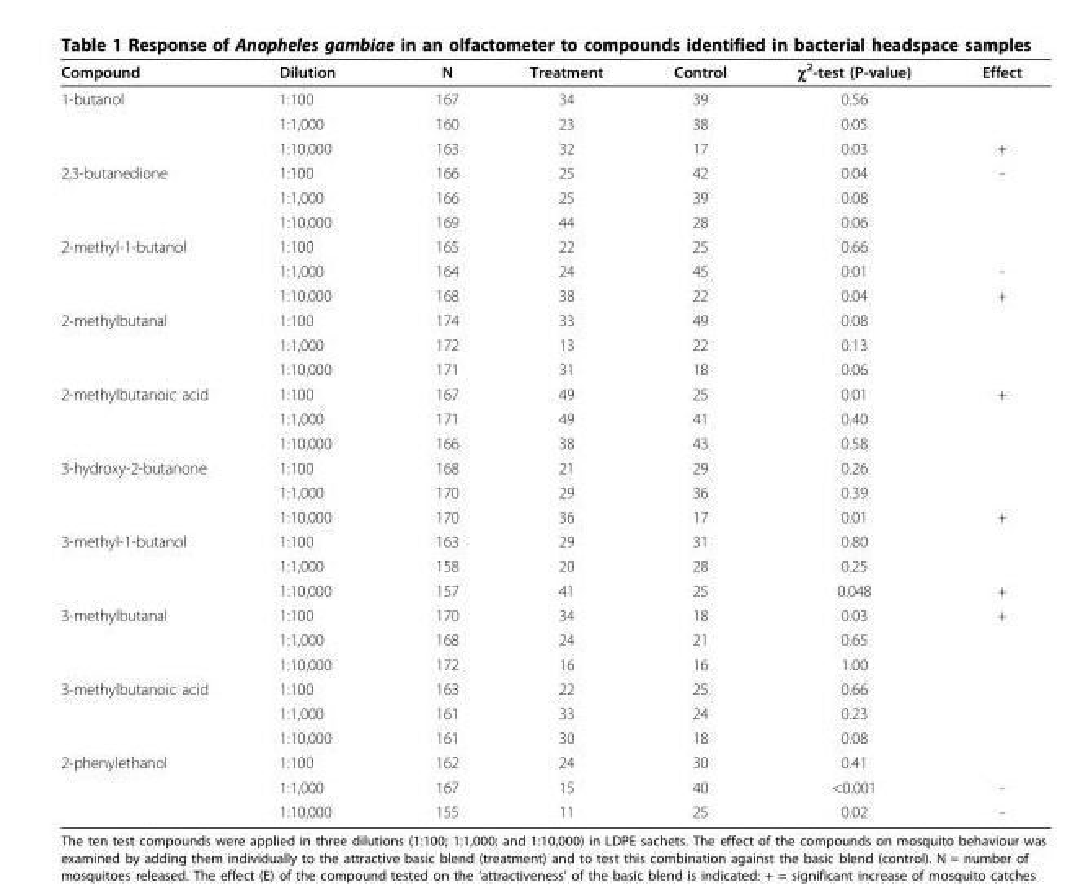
<table><thead><tr><td>Compound</td><td>Dilution</td><td>N</td><td>Treatment</td><td>Control</td><td>χ<sup>2</sup>-test (P-value)</td><td>Effect</td></tr></thead><tbody><tr><td rowspan="3">1-butanol</td><td>1:100</td><td>167</td><td>34</td><td>39</td><td>0.56</td><td></td></tr><tr><td>1:1,000</td><td>160</td><td>23</td><td>38</td><td>0.05</td><td></td></tr><tr><td>1:10,000</td><td>163</td><td>32</td><td>17</td><td>0.03</td><td>+</td></tr><tr><td rowspan="3">2,3-butanedione</td><td>1:100</td><td>166</td><td>25</td><td>42</td><td>0.04</td><td>-</td></tr><tr><td>1:1,000</td><td>166</td><td>25</td><td>39</td><td>0.08</td><td></td></tr><tr><td>1:10,000</td><td>169</td><td>44</td><td>28</td><td>0.06</td><td></td></tr><tr><td rowspan="3">2-methyl-1-butanol</td><td>1:100</td><td>165</td><td>22</td><td>25</td><td>0.66</td><td></td></tr><tr><td>1:1,000</td><td>164</td><td>24</td><td>45</td><td>0.01</td><td>-</td></tr><tr><td>1:10,000</td><td>168</td><td>38</td><td>22</td><td>0.04</td><td>+</td></tr><tr><td rowspan="3">2-methylbutanal</td><td>1:100</td><td>174</td><td>33</td><td>49</td><td>0.08</td><td></td></tr><tr><td>1:1,000</td><td>172</td><td>13</td><td>22</td><td>0.13</td><td></td></tr><tr><td>1:10,000</td><td>171</td><td>31</td><td>18</td><td>0.06</td><td></td></tr><tr><td rowspan="3">2-methylbutanoic acid</td><td>1:100</td><td>167</td><td>49</td><td>25</td><td>0.01</td><td>+</td></tr><tr><td>1:1,000</td><td>171</td><td>49</td><td>41</td><td>0.40</td><td></td></tr><tr><td>1:10,000</td><td>166</td><td>38</td><td>43</td><td>0.58</td><td></td></tr><tr><td rowspan="3">3-hydroxy-2-butanone</td><td>1:100</td><td>168</td><td>21</td><td>29</td><td>0.26</td><td></td></tr><tr><td>1:1,000</td><td>170</td><td>29</td><td>36</td><td>0.39</td><td></td></tr><tr><td>1:10,000</td><td>170</td><td>36</td><td>17</td><td>0.01</td><td>+</td></tr><tr><td rowspan="3">3-methyl-1-butanol</td><td>1:100</td><td>163</td><td>29</td><td>31</td><td>0.80</td><td></td></tr><tr><td>1:1,000</td><td>158</td><td>20</td><td>28</td><td>0.25</td><td></td></tr><tr><td>1:10,000</td><td>157</td><td>41</td><td>25</td><td>0.048</td><td>+</td></tr><tr><td rowspan="3">3-methylbutanal</td><td>1:100</td><td>170</td><td>34</td><td>18</td><td>0.03</td><td>+</td></tr><tr><td>1:1,000</td><td>168</td><td>24</td><td>21</td><td>0.65</td><td></td></tr><tr><td>1:10,000</td><td>172</td><td>16</td><td>16</td><td>1.00</td><td></td></tr><tr><td rowspan="3">3-methylbutanoic acid</td><td>1:100</td><td>163</td><td>22</td><td>25</td><td>0.66</td><td></td></tr><tr><td>1:1,000</td><td>161</td><td>33</td><td>24</td><td>0.23</td><td></td></tr><tr><td>1:10,000</td><td>161</td><td>30</td><td>18</td><td>0.08</td><td></td></tr><tr><td rowspan="3">2-phenylethanol</td><td>1:100</td><td>162</td><td>24</td><td>30</td><td>0.41</td><td></td></tr><tr><td>1:1,000</td><td>167</td><td>15</td><td>40</td><td>&lt;0.001</td><td>-</td></tr><tr><td>1:10,000</td><td>155</td><td>11</td><td>25</td><td>0.02</td><td>-</td></tr></tbody></table>